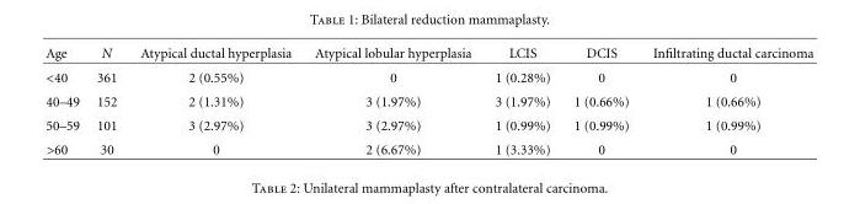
<table><thead><tr><td>Age</td><td>N</td><td>Atypical ductal hyperplasia</td><td>Atypical lobular hyperplasia</td><td>LCIS</td><td>DCIS</td><td>Infiltrating ductal carcinoma</td></tr></thead><tbody><tr><td>&lt;40</td><td>361</td><td>2 (0.55%)</td><td>0</td><td>1 (0.28%)</td><td>0</td><td>0</td></tr><tr><td>40–49</td><td>152</td><td>2 (1.31%)</td><td>3 (1.97%)</td><td>3 (1.97%)</td><td>1 (0.66%)</td><td>1 (0.66%)</td></tr><tr><td>50–59</td><td>101</td><td>3 (2.97%)</td><td>3 (2.97%)</td><td>1 (0.99%)</td><td>1 (0.99%)</td><td>1 (0.99%)</td></tr><tr><td>&gt;60</td><td>30</td><td>0</td><td>2 (6.67%)</td><td>1 (3.33%)</td><td>0</td><td>0</td></tr></tbody></table>